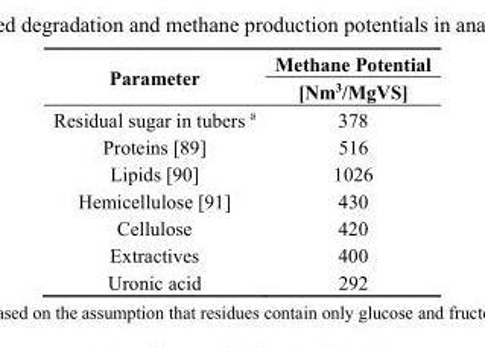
<table><thead><tr><td rowspan="2">Parameter</td><td rowspan="2">Methane Potential [Nm<sup>3</sup>/MgVS]</td></tr><tr></tr></thead><tbody><tr><td>Residual sugar in tubers <sup>a</sup></td><td>378</td></tr><tr><td>Proteins [89]</td><td>516</td></tr><tr><td>Lipids [90]</td><td>1026</td></tr><tr><td>Hemicellulose [91]</td><td>430</td></tr><tr><td>Cellulose</td><td>420</td></tr><tr><td>Extractives</td><td>400</td></tr><tr><td>Uronic acid</td><td>292</td></tr></tbody></table>